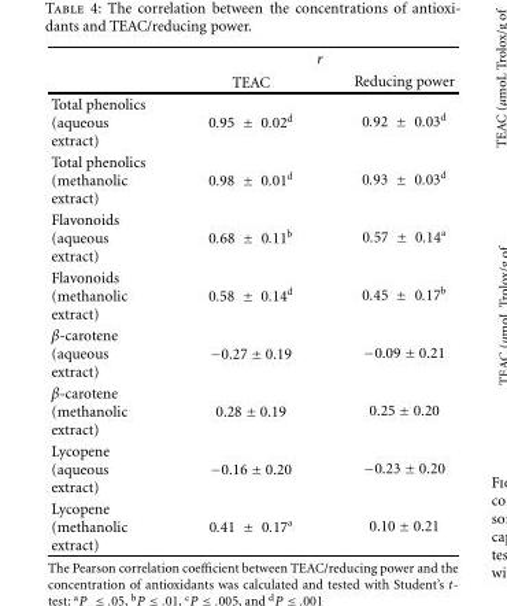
<table><thead><tr><td rowspan="2"></td><td colspan="2">r</td></tr><tr><td>TEAC</td><td>Reducing power</td></tr></thead><tbody><tr><td>Total phenolics (aqueous extract)</td><td>0.95 ± 0.02<sup>d</sup></td><td>0.92 ± 0.03<sup>d</sup></td></tr><tr><td>Total phenolics (methanolic extract)</td><td>0.98 ± 0.01<sup>d</sup></td><td>0.93 ± 0.03<sup>d</sup></td></tr><tr><td>Flavonoids (aqueous extract)</td><td>0.68 ± 0.11<sup>b</sup></td><td>0.57 ± 0.14<sup>a</sup></td></tr><tr><td>Flavonoids (methanolic extract)</td><td>0.58 ± 0.14<sup>d</sup></td><td>0.45 ± 0.17<sup>b</sup></td></tr><tr><td>β-carotene (aqueous extract)</td><td>−0.27 ± 0.19</td><td>−0.09 ± 0.21</td></tr><tr><td>β-carotene (methanolic extract)</td><td>0.28 ± 0.19</td><td>0.25 ± 0.20</td></tr><tr><td>Lycopene (aqueous extract)</td><td>−0.16 ± 0.20</td><td>−0.23 ± 0.20</td></tr><tr><td>Lycopene (methanolic extract)</td><td>0.41 ± 0.17<sup>a</sup></td><td>0.10 ± 0.21</td></tr></tbody></table>